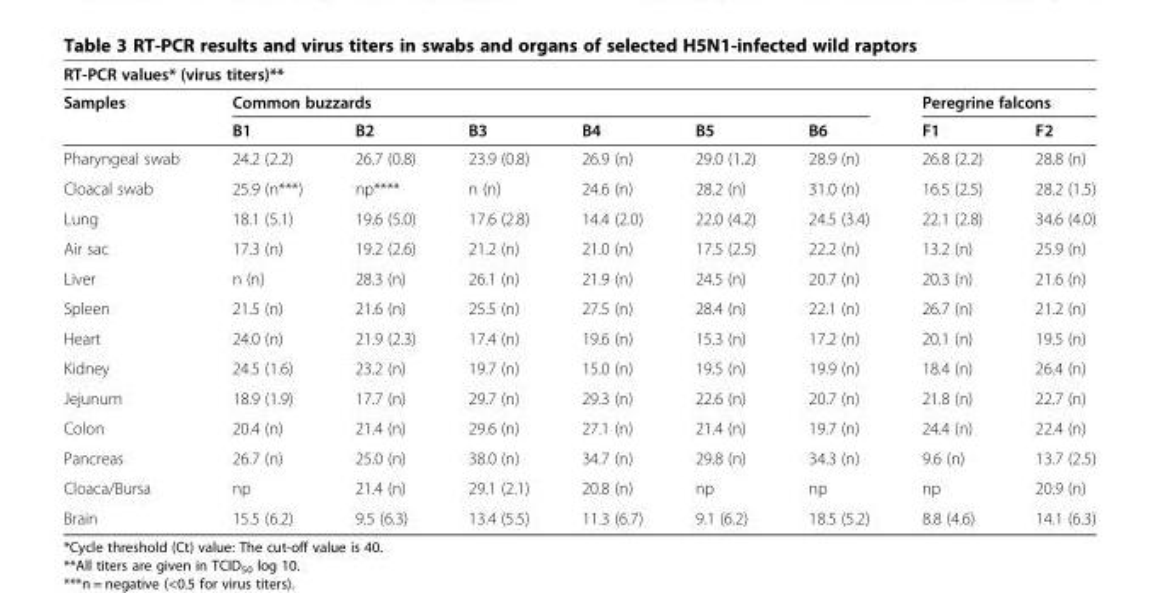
<table><thead><tr><td colspan="9">RT-PCR values* (virus titers)**</td></tr><tr><td rowspan="2">Samples</td><td colspan="6">Common buzzards</td><td colspan="2">Peregrine falcons</td></tr><tr><td>B1</td><td>B2</td><td>B3</td><td>B4</td><td>B5</td><td>B6</td><td>F1</td><td>F2</td></tr></thead><tbody><tr><td>Pharyngeal swab</td><td>24.2 (2.2)</td><td>26.7 (0.8)</td><td>23.9 (0.8)</td><td>26.9 (n)</td><td>29.0 (1.2)</td><td>28.9 (n)</td><td>26.8 (2.2)</td><td>28.8 (n)</td></tr><tr><td>Cloacal swab</td><td>25.9 (n***)</td><td>np****</td><td>n (n)</td><td>24.6 (n)</td><td>28.2 (n)</td><td>31.0 (n)</td><td>16.5 (2.5)</td><td>28.2 (1.5)</td></tr><tr><td>Lung</td><td>18.1 (5.1)</td><td>19.6 (5.0)</td><td>17.6 (2.8)</td><td>14.4 (2.0)</td><td>22.0 (4.2)</td><td>24.5 (3.4)</td><td>22.1 (2.8)</td><td>34.6 (4.0)</td></tr><tr><td>Air sac</td><td>17.3 (n)</td><td>19.2 (2.6)</td><td>21.2 (n)</td><td>21.0 (n)</td><td>17.5 (2.5)</td><td>22.2 (n)</td><td>13.2 (n)</td><td>25.9 (n)</td></tr><tr><td>Liver</td><td>n (n)</td><td>28.3 (n)</td><td>26.1 (n)</td><td>21.9 (n)</td><td>24.5 (n)</td><td>20.7 (n)</td><td>20.3 (n)</td><td>21.6 (n)</td></tr><tr><td>Spleen</td><td>21.5 (n)</td><td>21.6 (n)</td><td>25.5 (n)</td><td>27.5 (n)</td><td>28.4 (n)</td><td>22.1 (n)</td><td>26.7 (n)</td><td>21.2 (n)</td></tr><tr><td>Heart</td><td>24.0 (n)</td><td>21.9 (2.3)</td><td>17.4 (n)</td><td>19.6 (n)</td><td>15.3 (n)</td><td>17.2 (n)</td><td>20.1 (n)</td><td>19.5 (n)</td></tr><tr><td>Kidney</td><td>24.5 (1.6)</td><td>23.2 (n)</td><td>19.7 (n)</td><td>15.0 (n)</td><td>19.5 (n)</td><td>19.9 (n)</td><td>18.4 (n)</td><td>26.4 (n)</td></tr><tr><td>Jejunum</td><td>18.9 (1.9)</td><td>17.7 (n)</td><td>29.7 (n)</td><td>29.3 (n)</td><td>22.6 (n)</td><td>20.7 (n)</td><td>21.8 (n)</td><td>22.7 (n)</td></tr><tr><td>Colon</td><td>20.4 (n)</td><td>21.4 (n)</td><td>29.6 (n)</td><td>27.1 (n)</td><td>21.4 (n)</td><td>19.7 (n)</td><td>24.4 (n)</td><td>22.4 (n)</td></tr><tr><td>Pancreas</td><td>26.7 (n)</td><td>25.0 (n)</td><td>38.0 (n)</td><td>34.7 (n)</td><td>29.8 (n)</td><td>34.3 (n)</td><td>9.6 (n)</td><td>13.7 (2.5)</td></tr><tr><td>Cloaca/Bursa</td><td>np</td><td>21.4 (n)</td><td>29.1 (2.1)</td><td>20.8 (n)</td><td>np</td><td>np</td><td>np</td><td>20.9 (n)</td></tr><tr><td>Brain</td><td>15.5 (6.2)</td><td>9.5 (6.3)</td><td>13.4 (5.5)</td><td>11.3 (6.7)</td><td>9.1 (6.2)</td><td>18.5 (5.2)</td><td>8.8 (4.6)</td><td>14.1 (6.3)</td></tr></tbody></table>